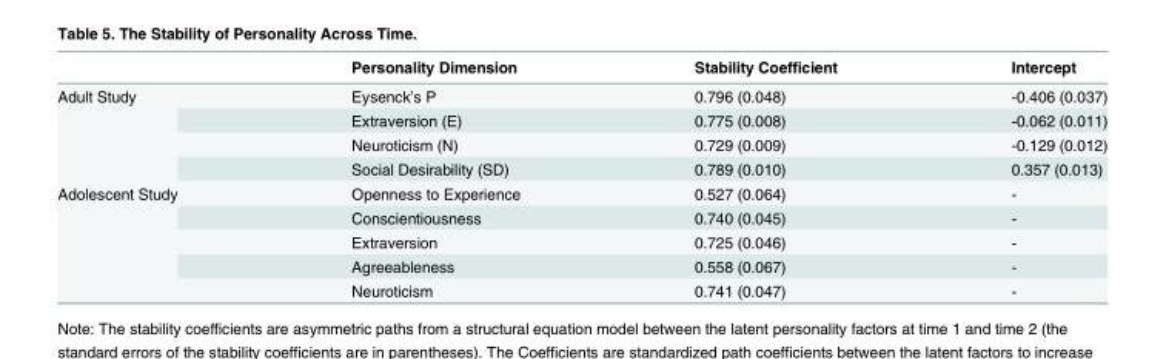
<table><thead><tr><td></td><td>Personality Dimension</td><td>Stability Coefficient</td><td>Intercept</td></tr></thead><tbody><tr><td rowspan="4">Adult Study</td><td>Eysenck’s P</td><td>0.796 (0.048)</td><td>-0.406 (0.037)</td></tr><tr><td>Extraversion (E)</td><td>0.775 (0.008)</td><td>-0.062 (0.011)</td></tr><tr><td>Neuroticism (N)</td><td>0.729 (0.009)</td><td>-0.129 (0.012)</td></tr><tr><td>Social Desirability (SD)</td><td>0.789 (0.010)</td><td>0.357 (0.013)</td></tr><tr><td rowspan="5">Adolescent Study</td><td>Openness to Experience</td><td>0.527 (0.064)</td><td>-</td></tr><tr><td>Conscientiousness</td><td>0.740 (0.045)</td><td>-</td></tr><tr><td>Extraversion</td><td>0.725 (0.046)</td><td>-</td></tr><tr><td>Agreeableness</td><td>0.558 (0.067)</td><td>-</td></tr><tr><td>Neuroticism</td><td>0.741 (0.047)</td><td>-</td></tr></tbody></table>